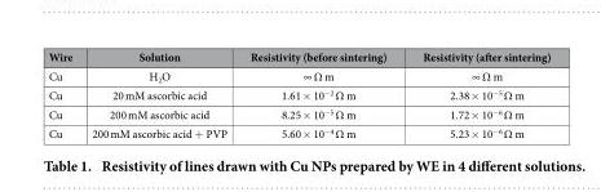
<table><thead><tr><td>Wire</td><td>Solution</td><td>Resistivity (before sintering)</td><td>Resistivity (after sintering)</td></tr></thead><tbody><tr><td>Cu</td><td>H<sub>2</sub>O</td><td>∞ Ω m</td><td>∞ Ω m</td></tr><tr><td>Cu</td><td>20 mM ascorbic acid</td><td>1.61 × 10<sup>−2</sup> Ω m</td><td>2.38 × 10<sup>−5</sup> Ω m</td></tr><tr><td>Cu</td><td>200 mM ascorbic acid</td><td>8.25 × 10<sup>−5</sup> Ω m</td><td>1.72 × 10<sup>−6</sup> Ω m</td></tr><tr><td>Cu</td><td>200 mM ascorbic acid + PVP</td><td>5.60 × 10<sup>−4</sup> Ω m</td><td>5.23 × 10<sup>−6</sup> Ω m</td></tr></tbody></table>